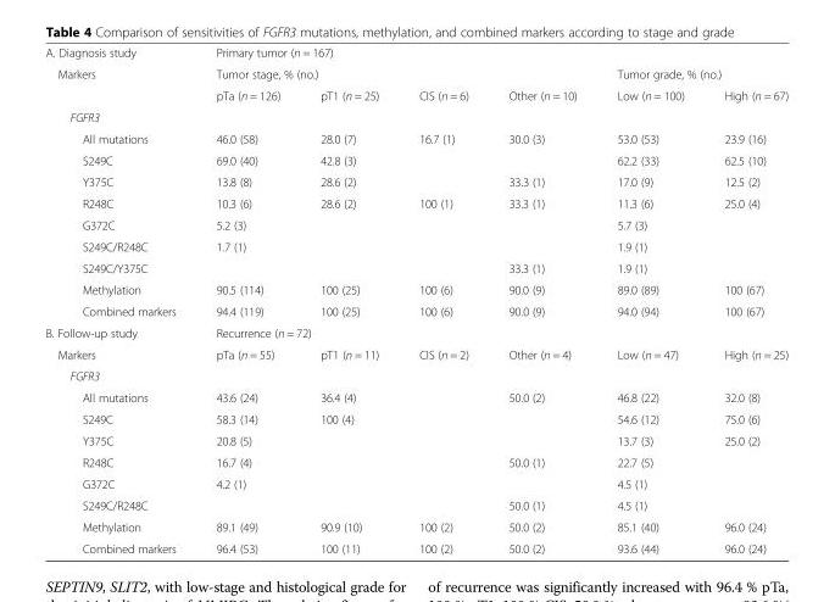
<table><tbody><tr><td>A. Diagnosis study</td><td colspan="6">Primary tumor (n = 167)</td></tr><tr><td rowspan="2">Markers</td><td colspan="4">Tumor stage, % (no.)</td><td colspan="2">Tumor grade, % (no.)</td></tr><tr><td>pTa (n = 126)</td><td>pT1 (n = 25)</td><td>CIS (n = 6)</td><td>Other (n = 10)</td><td>Low (n = 100)</td><td>High (n = 67)</td></tr><tr><td colspan="7">FGFR3</td></tr><tr><td>All mutations</td><td>46.0 (58)</td><td>28.0 (7)</td><td>16.7 (1)</td><td>30.0 (3)</td><td>53.0 (53)</td><td>23.9 (16)</td></tr><tr><td>S249C</td><td>69.0 (40)</td><td>42.8 (3)</td><td></td><td></td><td>62.2 (33)</td><td>62.5 (10)</td></tr><tr><td>Y375C</td><td>13.8 (8)</td><td>28.6 (2)</td><td></td><td>33.3 (1)</td><td>17.0 (9)</td><td>12.5 (2)</td></tr><tr><td>R248C</td><td>10.3 (6)</td><td>28.6 (2)</td><td>100 (1)</td><td>33.3 (1)</td><td>11.3 (6)</td><td>25.0 (4)</td></tr><tr><td>G372C</td><td>5.2 (3)</td><td></td><td></td><td></td><td>5.7 (3)</td><td></td></tr><tr><td>S249C/R248C</td><td>1.7 (1)</td><td></td><td></td><td></td><td>1.9 (1)</td><td></td></tr><tr><td>S249C/Y375C</td><td></td><td></td><td></td><td>33.3 (1)</td><td>1.9 (1)</td><td></td></tr><tr><td>Methylation</td><td>90.5 (114)</td><td>100 (25)</td><td>100 (6)</td><td>90.0 (9)</td><td>89.0 (89)</td><td>100 (67)</td></tr><tr><td>Combined markers</td><td>94.4 (119)</td><td>100 (25)</td><td>100 (6)</td><td>90.0 (9)</td><td>94.0 (94)</td><td>100 (67)</td></tr><tr><td>B. Follow-up study</td><td colspan="6">Recurrence (n = 72)</td></tr><tr><td>Markers</td><td>pTa (n = 55)</td><td>pT1 (n = 11)</td><td>CIS (n = 2)</td><td>Other (n = 4)</td><td>Low (n = 47)</td><td>High (n = 25)</td></tr><tr><td colspan="7">FGFR3</td></tr><tr><td>All mutations</td><td>43.6 (24)</td><td>36.4 (4)</td><td></td><td>50.0 (2)</td><td>46.8 (22)</td><td>32.0 (8)</td></tr><tr><td>S249C</td><td>58.3 (14)</td><td>100 (4)</td><td></td><td></td><td>54.6 (12)</td><td>75.0 (6)</td></tr><tr><td>Y375C</td><td>20.8 (5)</td><td></td><td></td><td></td><td>13.7 (3)</td><td>25.0 (2)</td></tr><tr><td>R248C</td><td>16.7 (4)</td><td></td><td></td><td>50.0 (1)</td><td>22.7 (5)</td><td></td></tr><tr><td>G372C</td><td>4.2 (1)</td><td></td><td></td><td></td><td>4.5 (1)</td><td></td></tr><tr><td>S249C/R248C</td><td></td><td></td><td></td><td>50.0 (1)</td><td>4.5 (1)</td><td></td></tr><tr><td>Methylation</td><td>89.1 (49)</td><td>90.9 (10)</td><td>100 (2)</td><td>50.0 (2)</td><td>85.1 (40)</td><td>96.0 (24)</td></tr><tr><td>Combined markers</td><td>96.4 (53)</td><td>100 (11)</td><td>100 (2)</td><td>50.0 (2)</td><td>93.6 (44)</td><td>96.0 (24)</td></tr></tbody></table>